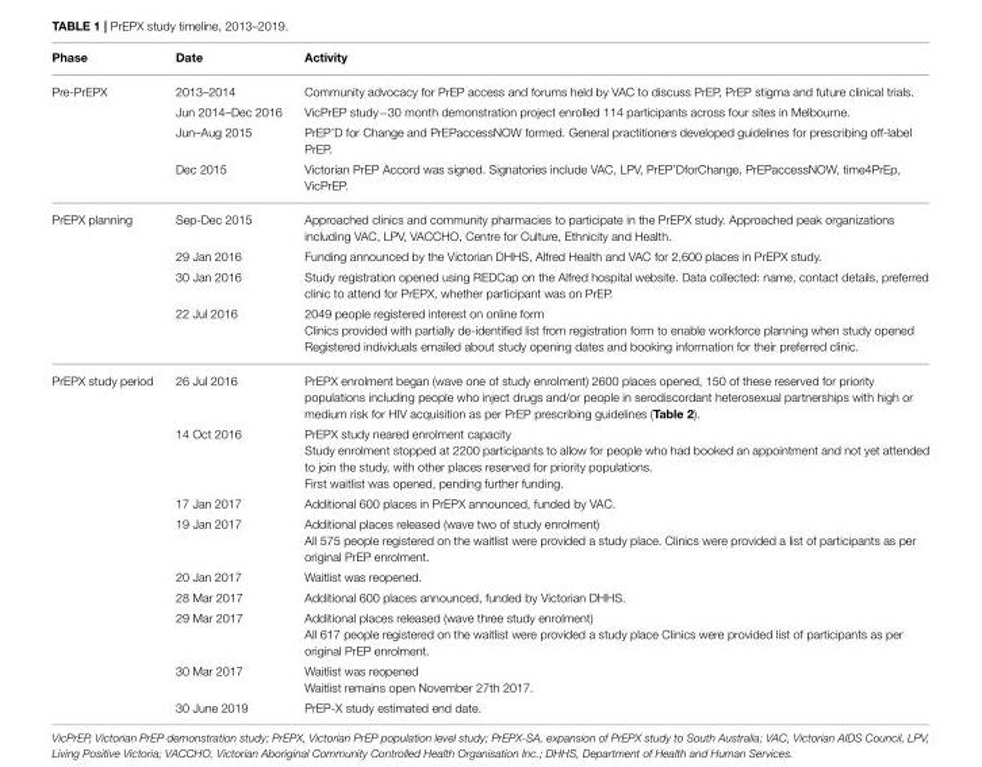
<table><thead><tr><td>Phase</td><td>Date</td><td>Activity</td></tr></thead><tbody><tr><td rowspan="4">Pre-PrEPX</td><td>2013–2014</td><td>Community advocacy for PrEP access and forums held by VAC to discuss PrEP, PrEP stigma and future clinical trials.</td></tr><tr><td>Jun 2014–Dec 2016</td><td>VicPrEP study−30 month demonstration project enrolled 114 participants across four sites in Melbourne.</td></tr><tr><td>Jun–Aug 2015</td><td>PrEP’D for Change and PrEPaccessNOW formed. General practitioners developed guidelines for prescribing off-label PrEP.</td></tr><tr><td>Dec 2015</td><td>Victorian PrEP Accord was signed. Signatories include VAC, LPV, PrEP’DforChange, PrEPaccessNOW, time4PrEp, VicPrEP.</td></tr><tr><td rowspan="4">PrEPX planning</td><td>Sep-Dec 2015</td><td>Approached clinics and community pharmacies to participate in the PrEPX study. Approached peak organizations including VAC, LPV, VACCHO, Centre for Culture, Ethnicity and Health.</td></tr><tr><td>29 Jan 2016</td><td>Funding announced by the Victorian DHHS, Alfred Health and VAC for 2,600 places in PrEPX study.</td></tr><tr><td>30 Jan 2016</td><td>Study registration opened using REDCap on the Alfred hospital website. Data collected: name, contact details, preferred clinic to attend for PrEPX, whether participant was on PrEP.</td></tr><tr><td>22 Jul 2016</td><td>2049 people registered interest on online form Clinics provided with partially de-identified list from registration form to enable workforce planning when study opened Registered individuals emailed about study opening dates and booking information for their preferred clinic.</td></tr><tr><td rowspan="9">PrEPX study period</td><td>26 Jul 2016</td><td>PrEPX enrolment began (wave one of study enrolment) 2600 places opened, 150 of these reserved for priority populations including people who inject drugs and/or people in serodiscordant heterosexual partnerships with high or medium risk for HIV acquisition as per PrEP prescribing guidelines (Table 2).</td></tr><tr><td>14 Oct 2016</td><td>PrEPX study neared enrolment capacity Study enrolment stopped at 2200 participants to allow for people who had booked an appointment and not yet attended to join the study, with other places reserved for priority populations. First waitlist was opened, pending further funding.</td></tr><tr><td>17 Jan 2017</td><td>Additional 600 places in PrEPX announced, funded by VAC.</td></tr><tr><td>19 Jan 2017</td><td>Additional places released (wave two of study enrolment) All 575 people registered on the waitlist were provided a study place. Clinics were provided a list of participants as per original PrEP enrolment.</td></tr><tr><td>20 Jan 2017</td><td>Waitlist was reopened.</td></tr><tr><td>28 Mar 2017</td><td>Additional 600 places announced, funded by Victorian DHHS.</td></tr><tr><td>29 Mar 2017</td><td>Additional places released (wave three study enrolment) All 617 people registered on the waitlist were provided a study place Clinics were provided list of participants as per original PrEP enrolment.</td></tr><tr><td>30 Mar 2017</td><td>Waitlist was reopened Waitlist remains open November 27th 2017.</td></tr><tr><td>30 June 2019</td><td>PrEP-X study estimated end date.</td></tr></tbody></table>